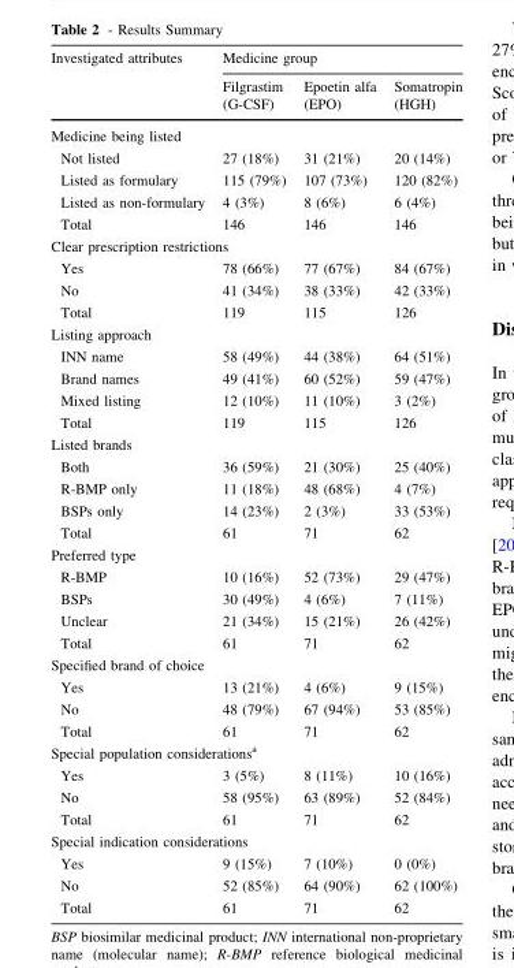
<table><thead><tr><td rowspan="2">Investigated attributes</td><td colspan="3">Medicine group</td></tr><tr><td>Filgrastim (G-CSF)</td><td>Epoetin alfa (EPO)</td><td>Somatropin (HGH)</td></tr></thead><tbody><tr><td colspan="4">Medicine being listed</td></tr><tr><td>Not listed</td><td>27 (18%)</td><td>31 (21%)</td><td>20 (14%)</td></tr><tr><td>Listed as formulary</td><td>115 (79%)</td><td>107 (73%)</td><td>120 (82%)</td></tr><tr><td>Listed as non-formulary</td><td>4 (3%)</td><td>8 (6%)</td><td>6 (4%)</td></tr><tr><td>Total</td><td>146</td><td>146</td><td>146</td></tr><tr><td colspan="4">Clear prescription restrictions</td></tr><tr><td>Yes</td><td>78 (66%)</td><td>77 (67%)</td><td>84 (67%)</td></tr><tr><td>No</td><td>41 (34%)</td><td>38 (33%)</td><td>42 (33%)</td></tr><tr><td>Total</td><td>119</td><td>115</td><td>126</td></tr><tr><td colspan="4">Listing approach</td></tr><tr><td>INN name</td><td>58 (49%)</td><td>44 (38%)</td><td>64 (51%)</td></tr><tr><td>Brand names</td><td>49 (41%)</td><td>60 (52%)</td><td>59 (47%)</td></tr><tr><td>Mixed listing</td><td>12 (10%)</td><td>11 (10%)</td><td>3 (2%)</td></tr><tr><td>Total</td><td>119</td><td>115</td><td>126</td></tr><tr><td colspan="4">Listed brands</td></tr><tr><td>Both</td><td>36 (59%)</td><td>21 (30%)</td><td>25 (40%)</td></tr><tr><td>R-BMP only</td><td>11 (18%)</td><td>48 (68%)</td><td>4 (7%)</td></tr><tr><td>BSPs only</td><td>14 (23%)</td><td>2 (3%)</td><td>33 (53%)</td></tr><tr><td>Total</td><td>61</td><td>71</td><td>62</td></tr><tr><td colspan="4">Preferred type</td></tr><tr><td>R-BMP</td><td>10 (16%)</td><td>52 (73%)</td><td>29 (47%)</td></tr><tr><td>BSPs</td><td>30 (49%)</td><td>4 (6%)</td><td>7 (11%)</td></tr><tr><td>Unclear</td><td>21 (34%)</td><td>15 (21%)</td><td>26 (42%)</td></tr><tr><td>Total</td><td>61</td><td>71</td><td>62</td></tr><tr><td colspan="4">Specified brand of choice</td></tr><tr><td>Yes</td><td>13 (21%)</td><td>4 (6%)</td><td>9 (15%)</td></tr><tr><td>No</td><td>48 (79%)</td><td>67 (94%)</td><td>53 (85%)</td></tr><tr><td>Total</td><td>61</td><td>71</td><td>62</td></tr><tr><td colspan="4">Special population considerations<sup>a</sup></td></tr><tr><td>Yes</td><td>3 (5%)</td><td>8 (11%)</td><td>10 (16%)</td></tr><tr><td>No</td><td>58 (95%)</td><td>63 (89%)</td><td>52 (84%)</td></tr><tr><td>Total</td><td>61</td><td>71</td><td>62</td></tr><tr><td colspan="4">Special indication considerations</td></tr><tr><td>Yes</td><td>9 (15%)</td><td>7 (10%)</td><td>0 (0%)</td></tr><tr><td>No</td><td>52 (85%)</td><td>64 (90%)</td><td>62 (100%)</td></tr><tr><td>Total</td><td>61</td><td>71</td><td>62</td></tr></tbody></table>